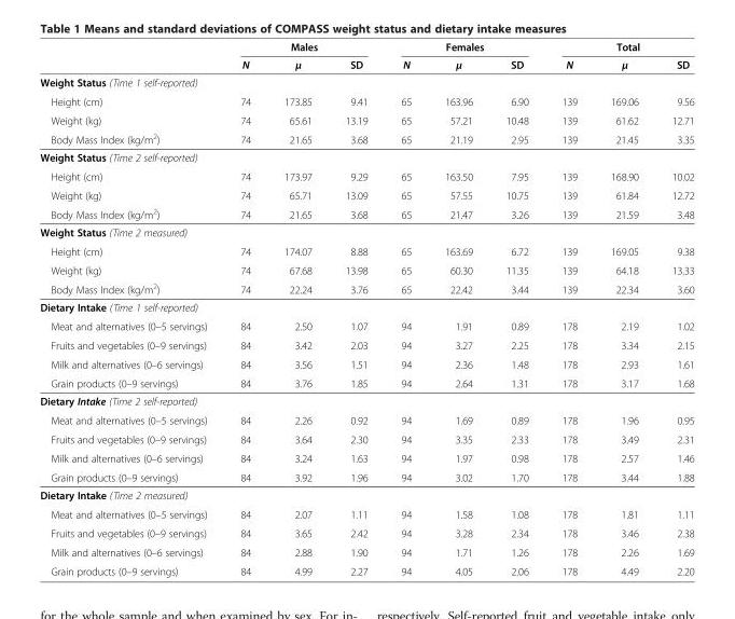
<table><thead><tr><td rowspan="2"></td><td colspan="3">Males</td><td colspan="3">Females</td><td colspan="3">Total</td></tr><tr><td>N</td><td>μ</td><td>SD</td><td>N</td><td>μ</td><td>SD</td><td>N</td><td>μ</td><td>SD</td></tr></thead><tbody><tr><td colspan="10">Weight Status (Time 1 self-reported)</td></tr><tr><td>Height (cm)</td><td>74</td><td>173.85</td><td>9.41</td><td>65</td><td>163.96</td><td>6.90</td><td>139</td><td>169.06</td><td>9.56</td></tr><tr><td>Weight (kg)</td><td>74</td><td>65.61</td><td>13.19</td><td>65</td><td>57.21</td><td>10.48</td><td>139</td><td>61.62</td><td>12.71</td></tr><tr><td>Body Mass Index (kg/m<sup>2</sup>)</td><td>74</td><td>21.65</td><td>3.68</td><td>65</td><td>21.19</td><td>2.95</td><td>139</td><td>21.45</td><td>3.35</td></tr><tr><td colspan="10">Weight Status (Time 2 self-reported)</td></tr><tr><td>Height (cm)</td><td>74</td><td>173.97</td><td>9.29</td><td>65</td><td>163.50</td><td>7.95</td><td>139</td><td>168.90</td><td>10.02</td></tr><tr><td>Weight (kg)</td><td>74</td><td>65.71</td><td>13.09</td><td>65</td><td>57.55</td><td>10.75</td><td>139</td><td>61.84</td><td>12.72</td></tr><tr><td>Body Mass Index (kg/m<sup>2</sup>)</td><td>74</td><td>21.65</td><td>3.68</td><td>65</td><td>21.47</td><td>3.26</td><td>139</td><td>21.59</td><td>3.48</td></tr><tr><td colspan="10">Weight Status (Time 2 measured)</td></tr><tr><td>Height (cm)</td><td>74</td><td>174.07</td><td>8.88</td><td>65</td><td>163.69</td><td>6.72</td><td>139</td><td>169.05</td><td>9.38</td></tr><tr><td>Weight (kg)</td><td>74</td><td>67.68</td><td>13.98</td><td>65</td><td>60.30</td><td>11.35</td><td>139</td><td>64.18</td><td>13.33</td></tr><tr><td>Body Mass Index (kg/m<sup>2</sup>)</td><td>74</td><td>22.24</td><td>3.76</td><td>65</td><td>22.42</td><td>3.44</td><td>139</td><td>22.34</td><td>3.60</td></tr><tr><td colspan="10">Dietary Intake (Time 1 self-reported)</td></tr><tr><td>Meat and alternatives (0–5 servings)</td><td>84</td><td>2.50</td><td>1.07</td><td>94</td><td>1.91</td><td>0.89</td><td>178</td><td>2.19</td><td>1.02</td></tr><tr><td>Fruits and vegetables (0–9 servings)</td><td>84</td><td>3.42</td><td>2.03</td><td>94</td><td>3.27</td><td>2.25</td><td>178</td><td>3.34</td><td>2.15</td></tr><tr><td>Milk and alternatives (0–6 servings)</td><td>84</td><td>3.56</td><td>1.51</td><td>94</td><td>2.36</td><td>1.48</td><td>178</td><td>2.93</td><td>1.61</td></tr><tr><td>Grain products (0–9 servings)</td><td>84</td><td>3.76</td><td>1.85</td><td>94</td><td>2.64</td><td>1.31</td><td>178</td><td>3.17</td><td>1.68</td></tr><tr><td colspan="10">Dietary Intake (Time 2 self-reported)</td></tr><tr><td>Meat and alternatives (0–5 servings)</td><td>84</td><td>2.26</td><td>0.92</td><td>94</td><td>1.69</td><td>0.89</td><td>178</td><td>1.96</td><td>0.95</td></tr><tr><td>Fruits and vegetables (0–9 servings)</td><td>84</td><td>3.64</td><td>2.30</td><td>94</td><td>3.35</td><td>2.33</td><td>178</td><td>3.49</td><td>2.31</td></tr><tr><td>Milk and alternatives (0–6 servings)</td><td>84</td><td>3.24</td><td>1.63</td><td>94</td><td>1.97</td><td>0.98</td><td>178</td><td>2.57</td><td>1.46</td></tr><tr><td>Grain products (0–9 servings)</td><td>84</td><td>3.92</td><td>1.96</td><td>94</td><td>3.02</td><td>1.70</td><td>178</td><td>3.44</td><td>1.88</td></tr><tr><td colspan="10">Dietary Intake (Time 2 measured)</td></tr><tr><td>Meat and alternatives (0–5 servings)</td><td>84</td><td>2.07</td><td>1.11</td><td>94</td><td>1.58</td><td>1.08</td><td>178</td><td>1.81</td><td>1.11</td></tr><tr><td>Fruits and vegetables (0–9 servings)</td><td>84</td><td>3.65</td><td>2.42</td><td>94</td><td>3.28</td><td>2.34</td><td>178</td><td>3.46</td><td>2.38</td></tr><tr><td>Milk and alternatives (0–6 servings)</td><td>84</td><td>2.88</td><td>1.90</td><td>94</td><td>1.71</td><td>1.26</td><td>178</td><td>2.26</td><td>1.69</td></tr><tr><td>Grain products (0–9 servings)</td><td>84</td><td>4.99</td><td>2.27</td><td>94</td><td>4.05</td><td>2.06</td><td>178</td><td>4.49</td><td>2.20</td></tr></tbody></table>